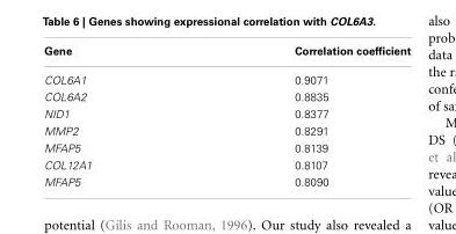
<table><thead><tr><td>Gene</td><td>Correlation coefficient</td></tr></thead><tbody><tr><td>COL6A1</td><td>0.9071</td></tr><tr><td>COL6A2</td><td>0.8835</td></tr><tr><td>NID1</td><td>0.8377</td></tr><tr><td>MMP2</td><td>0.8291</td></tr><tr><td>MFAP5</td><td>0.8139</td></tr><tr><td>COL12A1</td><td>0.8107</td></tr><tr><td>MFAP5</td><td>0.8090</td></tr></tbody></table>